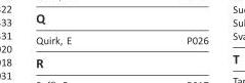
<table><tbody><tr><td>Quirk, E</td><td>P026</td></tr></tbody></table>